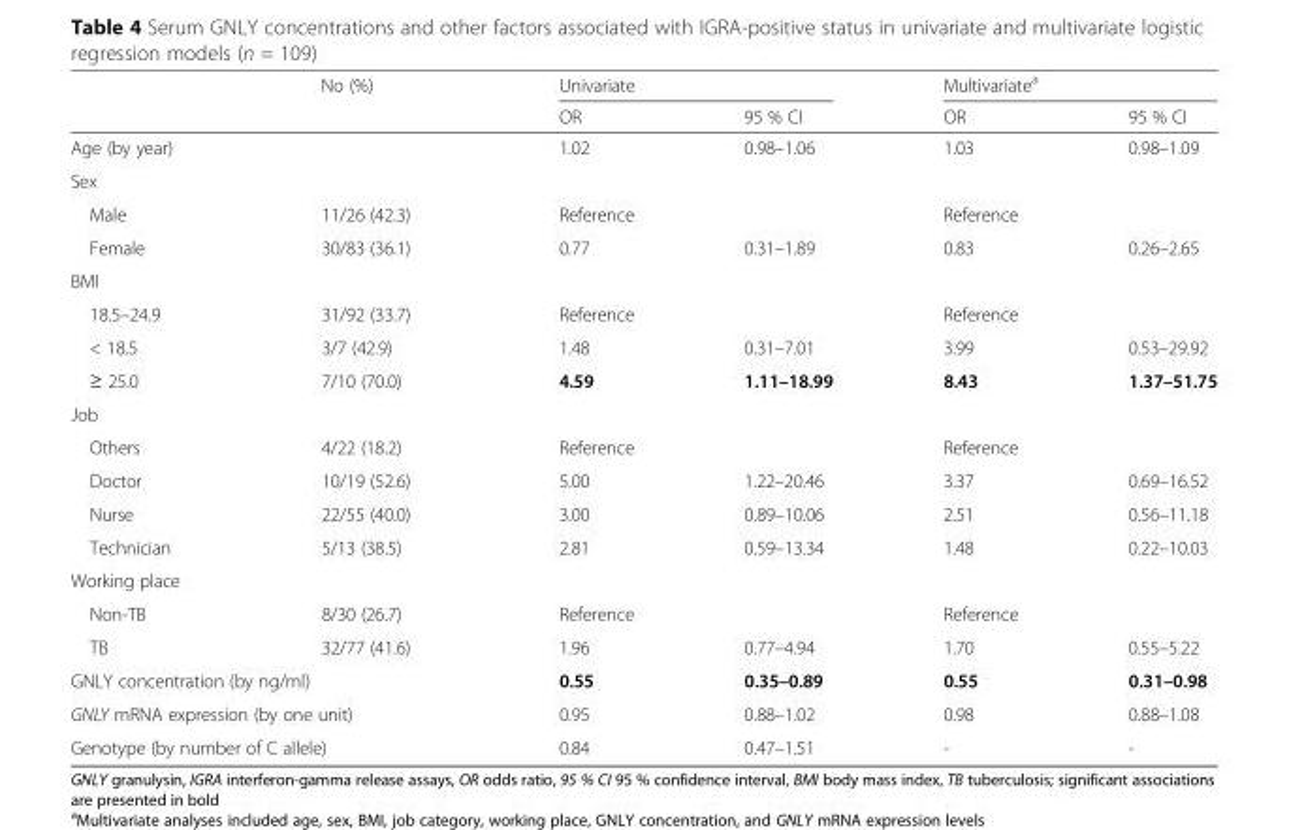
<table><thead><tr><td rowspan="2"></td><td rowspan="2">No (%)</td><td colspan="2">Univariate</td><td colspan="2">Multivariate<sup>a</sup></td></tr><tr><td>OR</td><td>95 % CI</td><td>OR</td><td>95 % CI</td></tr></thead><tbody><tr><td>Age (by year)</td><td></td><td>1.02</td><td>0.98–1.06</td><td>1.03</td><td>0.98–1.09</td></tr><tr><td colspan="6">Sex</td></tr><tr><td>Male</td><td>11/26 (42.3)</td><td>Reference</td><td></td><td>Reference</td><td></td></tr><tr><td>Female</td><td>30/83 (36.1)</td><td>0.77</td><td>0.31–1.89</td><td>0.83</td><td>0.26–2.65</td></tr><tr><td colspan="6">BMI</td></tr><tr><td>18.5–24.9</td><td>31/92 (33.7)</td><td>Reference</td><td></td><td>Reference</td><td></td></tr><tr><td>&lt; 18.5</td><td>3/7 (42.9)</td><td>1.48</td><td>0.31–7.01</td><td>3.99</td><td>0.53–29.92</td></tr><tr><td>≥ 25.0</td><td>7/10 (70.0)</td><td>4.59</td><td>1.11–18.99</td><td>8.43</td><td>1.37–51.75</td></tr><tr><td colspan="6">Job</td></tr><tr><td>Others</td><td>4/22 (18.2)</td><td>Reference</td><td></td><td>Reference</td><td></td></tr><tr><td>Doctor</td><td>10/19 (52.6)</td><td>5.00</td><td>1.22–20.46</td><td>3.37</td><td>0.69–16.52</td></tr><tr><td>Nurse</td><td>22/55 (40.0)</td><td>3.00</td><td>0.89–10.06</td><td>2.51</td><td>0.56–11.18</td></tr><tr><td>Technician</td><td>5/13 (38.5)</td><td>2.81</td><td>0.59–13.34</td><td>1.48</td><td>0.22–10.03</td></tr><tr><td colspan="6">Working place</td></tr><tr><td>Non-TB</td><td>8/30 (26.7)</td><td>Reference</td><td></td><td>Reference</td><td></td></tr><tr><td>TB</td><td>32/77 (41.6)</td><td>1.96</td><td>0.77–4.94</td><td>1.70</td><td>0.55–5.22</td></tr><tr><td colspan="2">GNLY concentration (by ng/ml)</td><td>0.55</td><td>0.35–0.89</td><td>0.55</td><td>0.31–0.98</td></tr><tr><td colspan="2">GNLY mRNA expression (by one unit)</td><td>0.95</td><td>0.88–1.02</td><td>0.98</td><td>0.88–1.08</td></tr><tr><td colspan="2">Genotype (by number of C allele)</td><td>0.84</td><td>0.47–1.51</td><td>-</td><td>-</td></tr></tbody></table>